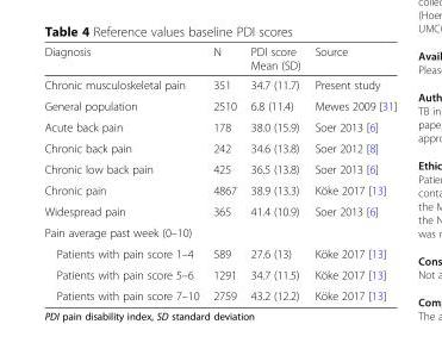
<table><thead><tr><td>Diagnosis</td><td>N</td><td>PDI score Mean (SD)</td><td>Source</td></tr></thead><tbody><tr><td>Chronic musculoskeletal pain</td><td>351</td><td>34.7 (11.7)</td><td>Present study</td></tr><tr><td>General population</td><td>2510</td><td>6.8 (11.4)</td><td>Mewes 2009 [31]</td></tr><tr><td>Acute back pain</td><td>178</td><td>38.0 (15.9)</td><td>Soer 2013 [6]</td></tr><tr><td>Chronic back pain</td><td>242</td><td>34.6 (13.8)</td><td>Soer 2012 [8]</td></tr><tr><td>Chronic low back pain</td><td>425</td><td>36.5 (13.8)</td><td>Soer 2013 [6]</td></tr><tr><td>Chronic pain</td><td>4867</td><td>38.9 (13.3)</td><td>Köke 2017 [13]</td></tr><tr><td>Widespread pain</td><td>365</td><td>41.4 (10.9)</td><td>Soer 2013 [6]</td></tr><tr><td colspan="4">Pain average past week (0–10)</td></tr><tr><td>Patients with pain score 1–4</td><td>589</td><td>27.6 (13)</td><td>Köke 2017 [13]</td></tr><tr><td>Patients with pain score 5–6</td><td>1291</td><td>34.7 (11.5)</td><td>Köke 2017 [13]</td></tr><tr><td>Patients with pain score 7–10</td><td>2759</td><td>43.2 (12.2)</td><td>Köke 2017 [13]</td></tr></tbody></table>